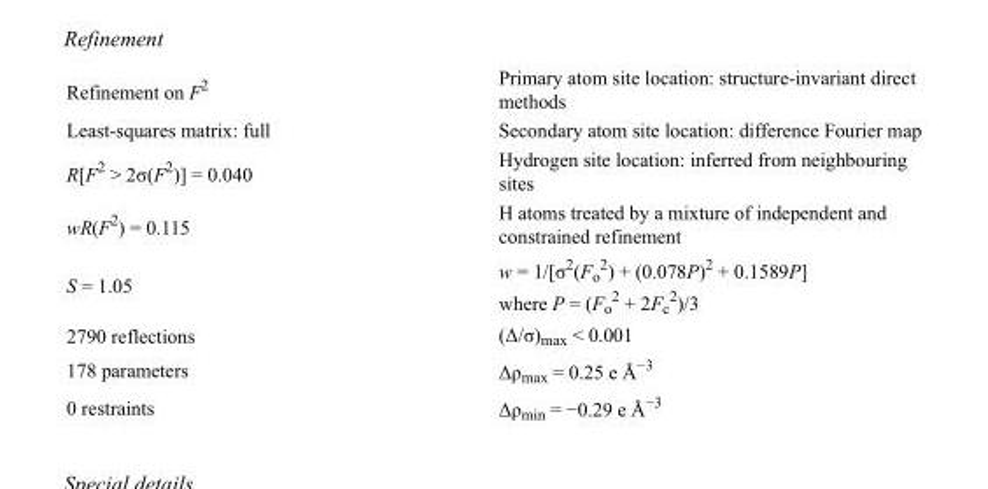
<table><tbody><tr><td>Refinement on F<sup>2</sup></td><td>Primary atom site location: structure-invariant direct methods</td></tr><tr><td>Least-squares matrix: full</td><td>Secondary atom site location: difference Fourier map</td></tr><tr><td>R[F<sup>2</sup> &gt; 2σ(F<sup>2</sup>)] = 0.040</td><td>Hydrogen site location: inferred from neighbouring sites</td></tr><tr><td>wR(F<sup>2</sup>) = 0.115</td><td>H atoms treated by a mixture of independent and constrained refinement</td></tr><tr><td>S = 1.05</td><td>w = 1/[σ<sup>2</sup>(F<sub>o</sub> <sup>2</sup>) + (0.078P)<sup>2</sup> + 0.1589P] where P = (F<sub>o</sub> <sup>2</sup> + 2F<sub>c</sub> <sup>2</sup>)/3</td></tr><tr><td>2790 reflections</td><td>(Δ/σ)<sub>max</sub> &lt; 0.001</td></tr><tr><td>178 parameters</td><td>Δρ<sub>max</sub> = 0.25 e Å<sup>−3</sup></td></tr><tr><td>0 restraints</td><td>Δρ<sub>min</sub> = −0.29 e Å<sup>−3</sup></td></tr></tbody></table>